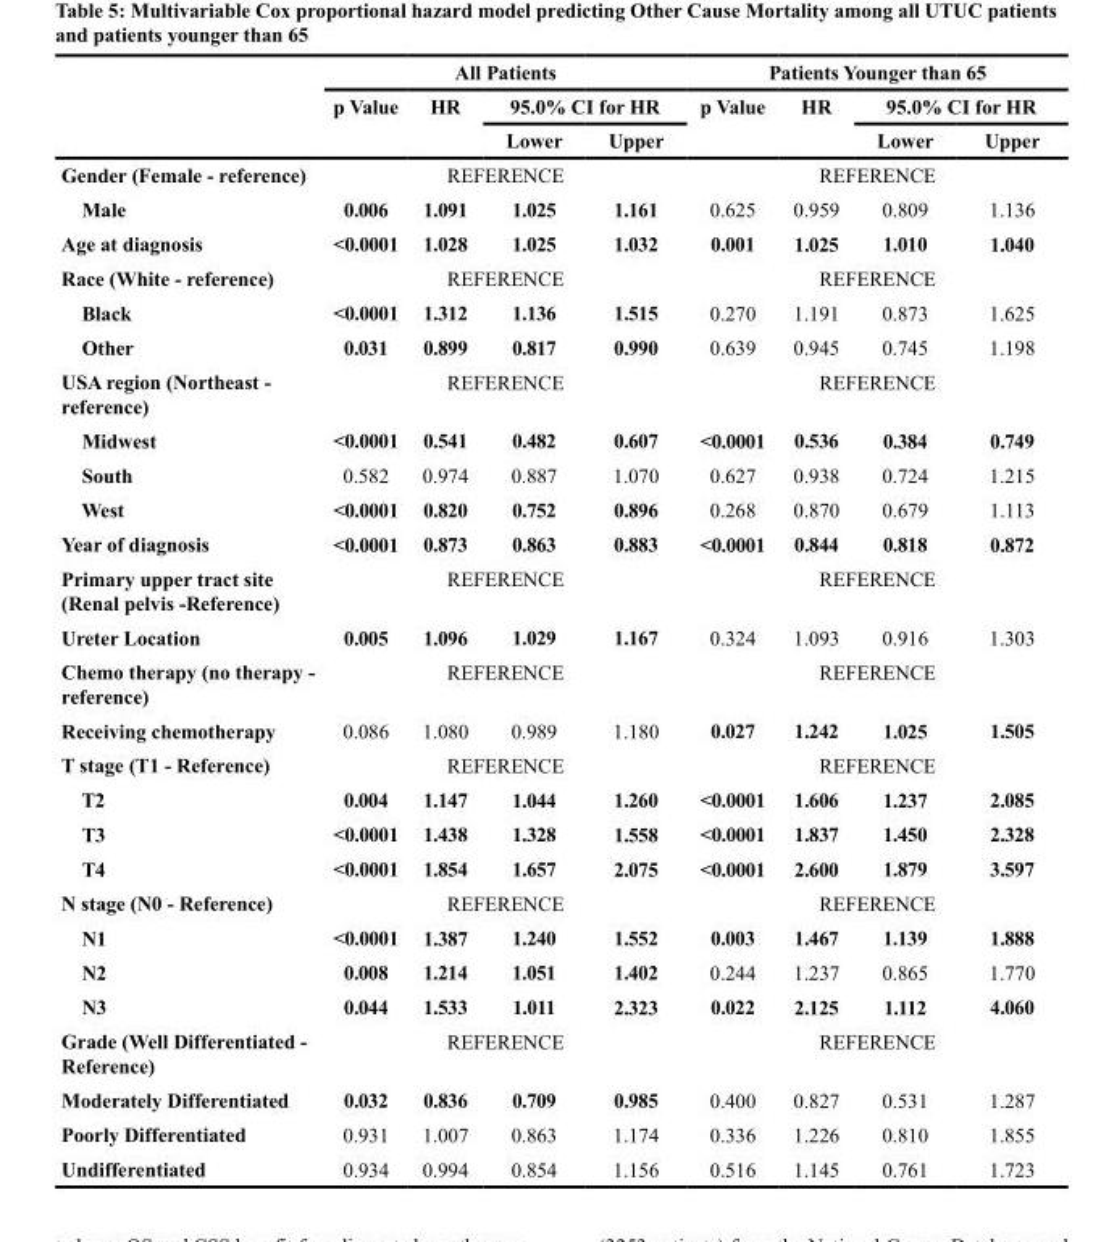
<table><thead><tr><td rowspan="3"></td><td colspan="4">All Patients</td><td colspan="4">Patients Younger than 65</td></tr><tr><td rowspan="2">p Value</td><td rowspan="2">HR</td><td colspan="2">95.0% CI for HR</td><td rowspan="2">p Value</td><td rowspan="2">HR</td><td colspan="2">95.0% CI for HR</td></tr><tr><td>Lower</td><td>Upper</td><td>Lower</td><td>Upper</td></tr></thead><tbody><tr><td>Gender (Female - reference)</td><td colspan="4">REFERENCE</td><td colspan="4">REFERENCE</td></tr><tr><td>Male</td><td>0.006</td><td>1.091</td><td>1.025</td><td>1.161</td><td>0.625</td><td>0.959</td><td>0.809</td><td>1.136</td></tr><tr><td>Age at diagnosis</td><td>&lt;0.0001</td><td>1.028</td><td>1.025</td><td>1.032</td><td>0.001</td><td>1.025</td><td>1.010</td><td>1.040</td></tr><tr><td>Race (White - reference)</td><td colspan="4">REFERENCE</td><td colspan="4">REFERENCE</td></tr><tr><td>Black</td><td>&lt;0.0001</td><td>1.312</td><td>1.136</td><td>1.515</td><td>0.270</td><td>1.191</td><td>0.873</td><td>1.625</td></tr><tr><td>Other</td><td>0.031</td><td>0.899</td><td>0.817</td><td>0.990</td><td>0.639</td><td>0.945</td><td>0.745</td><td>1.198</td></tr><tr><td>USA region (Northeast - reference)</td><td colspan="4">REFERENCE</td><td colspan="4">REFERENCE</td></tr><tr><td>Midwest</td><td>&lt;0.0001</td><td>0.541</td><td>0.482</td><td>0.607</td><td>&lt;0.0001</td><td>0.536</td><td>0.384</td><td>0.749</td></tr><tr><td>South</td><td>0.582</td><td>0.974</td><td>0.887</td><td>1.070</td><td>0.627</td><td>0.938</td><td>0.724</td><td>1.215</td></tr><tr><td>West</td><td>&lt;0.0001</td><td>0.820</td><td>0.752</td><td>0.896</td><td>0.268</td><td>0.870</td><td>0.679</td><td>1.113</td></tr><tr><td>Year of diagnosis</td><td>&lt;0.0001</td><td>0.873</td><td>0.863</td><td>0.883</td><td>&lt;0.0001</td><td>0.844</td><td>0.818</td><td>0.872</td></tr><tr><td>Primary upper tract site (Renal pelvis -Reference)</td><td colspan="4">REFERENCE</td><td colspan="4">REFERENCE</td></tr><tr><td>Ureter Location</td><td>0.005</td><td>1.096</td><td>1.029</td><td>1.167</td><td>0.324</td><td>1.093</td><td>0.916</td><td>1.303</td></tr><tr><td>Chemo therapy (no therapy - reference)</td><td colspan="4">REFERENCE</td><td colspan="4">REFERENCE</td></tr><tr><td>Receiving chemotherapy</td><td>0.086</td><td>1.080</td><td>0.989</td><td>1.180</td><td>0.027</td><td>1.242</td><td>1.025</td><td>1.505</td></tr><tr><td>T stage (T1 - Reference)</td><td colspan="4">REFERENCE</td><td colspan="4">REFERENCE</td></tr><tr><td>T2</td><td>0.004</td><td>1.147</td><td>1.044</td><td>1.260</td><td>&lt;0.0001</td><td>1.606</td><td>1.237</td><td>2.085</td></tr><tr><td>T3</td><td>&lt;0.0001</td><td>1.438</td><td>1.328</td><td>1.558</td><td>&lt;0.0001</td><td>1.837</td><td>1.450</td><td>2.328</td></tr><tr><td>T4</td><td>&lt;0.0001</td><td>1.854</td><td>1.657</td><td>2.075</td><td>&lt;0.0001</td><td>2.600</td><td>1.879</td><td>3.597</td></tr><tr><td>N stage (N0 - Reference)</td><td colspan="4">REFERENCE</td><td colspan="4">REFERENCE</td></tr><tr><td>N1</td><td>&lt;0.0001</td><td>1.387</td><td>1.240</td><td>1.552</td><td>0.003</td><td>1.467</td><td>1.139</td><td>1.888</td></tr><tr><td>N2</td><td>0.008</td><td>1.214</td><td>1.051</td><td>1.402</td><td>0.244</td><td>1.237</td><td>0.865</td><td>1.770</td></tr><tr><td>N3</td><td>0.044</td><td>1.533</td><td>1.011</td><td>2.323</td><td>0.022</td><td>2.125</td><td>1.112</td><td>4.060</td></tr><tr><td>Grade (Well Differentiated - Reference)</td><td colspan="4">REFERENCE</td><td colspan="4">REFERENCE</td></tr><tr><td>Moderately Differentiated</td><td>0.032</td><td>0.836</td><td>0.709</td><td>0.985</td><td>0.400</td><td>0.827</td><td>0.531</td><td>1.287</td></tr><tr><td>Poorly Differentiated</td><td>0.931</td><td>1.007</td><td>0.863</td><td>1.174</td><td>0.336</td><td>1.226</td><td>0.810</td><td>1.855</td></tr><tr><td>Undifferentiated</td><td>0.934</td><td>0.994</td><td>0.854</td><td>1.156</td><td>0.516</td><td>1.145</td><td>0.761</td><td>1.723</td></tr></tbody></table>